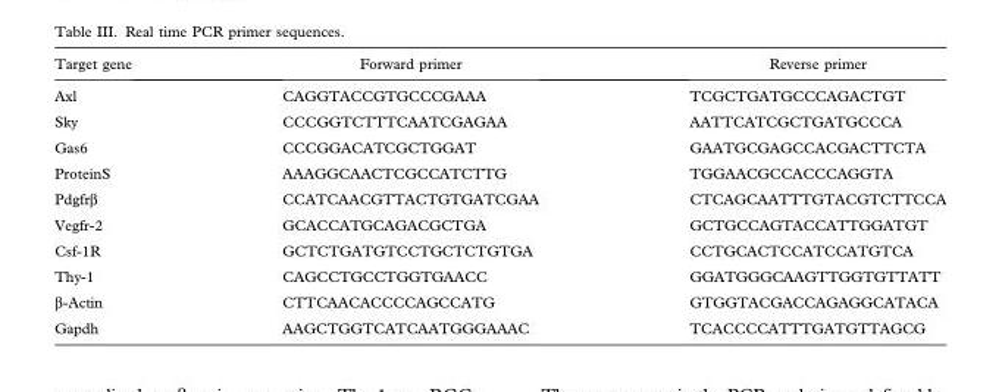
<table><thead><tr><td>Target gene</td><td>Forward primer</td><td>Reverse primer</td></tr></thead><tbody><tr><td>Axl</td><td>CAGGTACCGTGCCCGAAA</td><td>TCGCTGATGCCCAGACTGT</td></tr><tr><td>Sky</td><td>CCCGGTCTTTCAATCGAGAA</td><td>AATTCATCGCTGATGCCCA</td></tr><tr><td>Gas6</td><td>CCCGGACATCGCTGGAT</td><td>GAATGCGAGCCACGACTTCTA</td></tr><tr><td>ProteinS</td><td>AAAGGCAACTCGCCATCTTG</td><td>TGGAACGCCACCCAGGTA</td></tr><tr><td>Pdgfrβ</td><td>CCATCAACGTTACTGTGATCGAA</td><td>CTCAGCAATTTGTACGTCTTCCA</td></tr><tr><td>Vegfr-2</td><td>GCACCATGCAGACGCTGA</td><td>GCTGCCAGTACCATTGGATGT</td></tr><tr><td>Csf-1R</td><td>GCTCTGATGTCCTGCTCTGTGA</td><td>CCTGCACTCCATCCATGTCA</td></tr><tr><td>Thy-1</td><td>CAGCCTGCCTGGTGAACC</td><td>GGATGGGCAAGTTGGTGTTATT</td></tr><tr><td>β-Actin</td><td>CTTCAACACCCCAGCCATG</td><td>GTGGTACGACCAGAGGCATACA</td></tr><tr><td>Gapdh</td><td>AAGCTGGTCATCAATGGGAAAC</td><td>TCACCCCATTTGATGTTAGCG</td></tr></tbody></table>